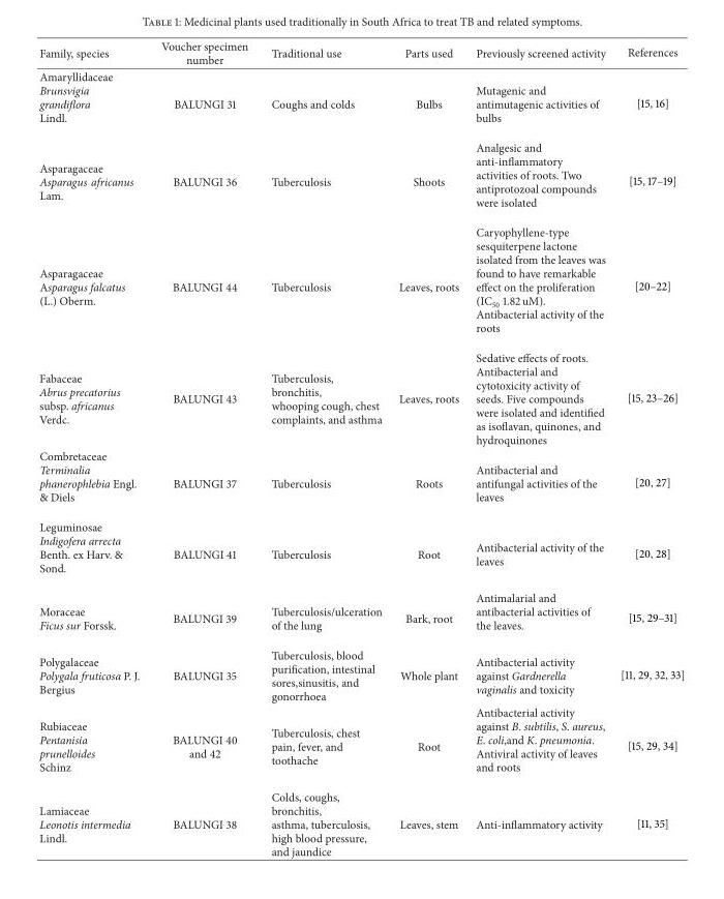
<table><thead><tr><td>Family, species</td><td>Voucher specimen number</td><td>Traditional use</td><td>Parts used</td><td>Previously screened activity</td><td>References</td></tr></thead><tbody><tr><td>Amaryllidaceae Brunsvigia grandiflora Lindl.</td><td>BALUNGI 31</td><td>Coughs and colds</td><td>Bulbs</td><td>Mutagenic and antimutagenic activities of bulbs</td><td>[15, 16]</td></tr><tr><td>Asparagaceae Asparagus africanus Lam.</td><td>BALUNGI 36</td><td>Tuberculosis</td><td>Shoots</td><td>Analgesic and anti-inflammatory activities of roots. Two antiprotozoal compounds were isolated</td><td>[15, 17–19]</td></tr><tr><td>Asparagaceae Asparagus falcatus (L.) Oberm.</td><td>BALUNGI 44</td><td>Tuberculosis</td><td>Leaves, roots</td><td>Caryophyllene-type sesquiterpene lactone isolated from the leaves was found to have remarkable effect on the proliferation (IC<sub>50</sub> 1.82 uM). Antibacterial activity of the roots</td><td>[20–22]</td></tr><tr><td>Fabaceae Abrus precatorius subsp. africanus Verdc.</td><td>BALUNGI 43</td><td>Tuberculosis, bronchitis, whooping cough, chest complaints, and asthma</td><td>Leaves, roots</td><td>Sedative effects of roots. Antibacterial and cytotoxicity activity of seeds. Five compounds were isolated and identified as isoflavan, quinones, and hydroquinones</td><td>[15, 23–26]</td></tr><tr><td>Combretaceae Terminalia phanerophlebia Engl. &amp; Diels</td><td>BALUNGI 37</td><td>Tuberculosis</td><td>Roots</td><td>Antibacterial and antifungal activities of the leaves</td><td>[20, 27]</td></tr><tr><td>Leguminosae Indigofera arrecta Benth. ex Harv. &amp; Sond.</td><td>BALUNGI 41</td><td>Tuberculosis</td><td>Root</td><td>Antibacterial activity of the leaves</td><td>[20, 28]</td></tr><tr><td>Moraceae Ficus sur Forssk.</td><td>BALUNGI 39</td><td>Tuberculosis/ulceration of the lung</td><td>Bark, root</td><td>Antimalarial and antibacterial activities of the leaves.</td><td>[15, 29–31]</td></tr><tr><td>Polygalaceae Polygala fruticosa P. J. Bergius</td><td>BALUNGI 35</td><td>Tuberculosis, blood purification, intestinal sores,sinusitis, and gonorrhoea</td><td>Whole plant</td><td>Antibacterial activity against Gardnerella vaginalis and toxicity</td><td>[11, 29, 32, 33]</td></tr><tr><td>Rubiaceae Pentanisia prunelloides Schinz</td><td>BALUNGI 40 and 42</td><td>Tuberculosis, chest pain, fever, and toothache</td><td>Root</td><td>Antibacterial activity against B. subtilis, S. aureus, E. coli,and K. pneumonia. Antiviral activity of leaves and roots</td><td>[15, 29, 34]</td></tr><tr><td>Lamiaceae Leonotis intermedia Lindl.</td><td>BALUNGI 38</td><td>Colds, coughs, bronchitis, asthma, tuberculosis, high blood pressure, and jaundice</td><td>Leaves, stem</td><td>Anti-inflammatory activity</td><td>[11, 35]</td></tr></tbody></table>